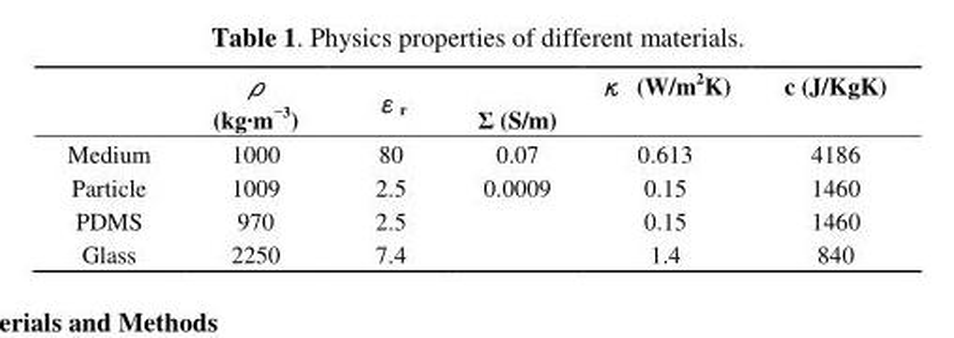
<table><thead><tr><td></td><td>ρ (kg·m<sup>−3</sup>)</td><td>ε<sub>r</sub></td><td>Σ (S/m)</td><td>κ (W/m<sup>2</sup>K)</td><td>c (J/KgK)</td></tr></thead><tbody><tr><td>Medium</td><td>1000</td><td>80</td><td>0.07</td><td>0.613</td><td>4186</td></tr><tr><td>Particle</td><td>1009</td><td>2.5</td><td>0.0009</td><td>0.15</td><td>1460</td></tr><tr><td>PDMS</td><td>970</td><td>2.5</td><td></td><td>0.15</td><td>1460</td></tr><tr><td>Glass</td><td>2250</td><td>7.4</td><td></td><td>1.4</td><td>840</td></tr></tbody></table>